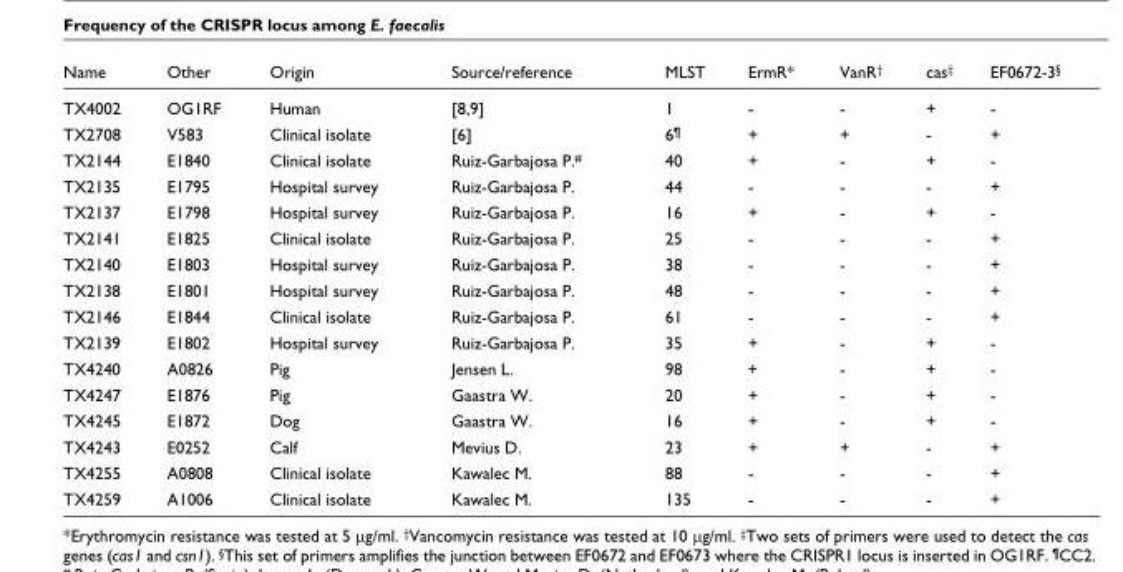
<table><thead><tr><td>Name</td><td>Other</td><td>Origin</td><td>Source/reference</td><td>MLST</td><td>ErmR*</td><td>VanR<sup>†</sup></td><td>cas<sup>‡</sup></td><td>EF0672-3<sup>§</sup></td></tr></thead><tbody><tr><td>TX4002</td><td>OG1RF</td><td>Human</td><td>[8,9]</td><td>1</td><td>-</td><td>-</td><td>+</td><td>-</td></tr><tr><td>TX2708</td><td>V583</td><td>Clinical isolate</td><td>[6]</td><td>6<sup>¶</sup></td><td>+</td><td>+</td><td>-</td><td>+</td></tr><tr><td>TX2144</td><td>E1840</td><td>Clinical isolate</td><td>Ruiz-Garbajosa P.<sup>#</sup></td><td>40</td><td>+</td><td>-</td><td>+</td><td>-</td></tr><tr><td>TX2135</td><td>E1795</td><td>Hospital survey</td><td>Ruiz-Garbajosa P.</td><td>44</td><td>-</td><td>-</td><td>-</td><td>+</td></tr><tr><td>TX2137</td><td>E1798</td><td>Hospital survey</td><td>Ruiz-Garbajosa P.</td><td>16</td><td>+</td><td>-</td><td>+</td><td>-</td></tr><tr><td>TX2141</td><td>E1825</td><td>Clinical isolate</td><td>Ruiz-Garbajosa P.</td><td>25</td><td>-</td><td>-</td><td>-</td><td>+</td></tr><tr><td>TX2140</td><td>E1803</td><td>Hospital survey</td><td>Ruiz-Garbajosa P.</td><td>38</td><td>-</td><td>-</td><td>-</td><td>+</td></tr><tr><td>TX2138</td><td>E1801</td><td>Hospital survey</td><td>Ruiz-Garbajosa P.</td><td>48</td><td>-</td><td>-</td><td>-</td><td>+</td></tr><tr><td>TX2146</td><td>E1844</td><td>Clinical isolate</td><td>Ruiz-Garbajosa P.</td><td>61</td><td>-</td><td>-</td><td>-</td><td>+</td></tr><tr><td>TX2139</td><td>E1802</td><td>Hospital survey</td><td>Ruiz-Garbajosa P.</td><td>35</td><td>+</td><td>-</td><td>+</td><td>-</td></tr><tr><td>TX4240</td><td>A0826</td><td>Pig</td><td>Jensen L.</td><td>98</td><td>+</td><td>-</td><td>+</td><td>-</td></tr><tr><td>TX4247</td><td>E1876</td><td>Pig</td><td>Gaastra W.</td><td>20</td><td>+</td><td>-</td><td>+</td><td>-</td></tr><tr><td>TX4245</td><td>E1872</td><td>Dog</td><td>Gaastra W.</td><td>16</td><td>+</td><td>-</td><td>+</td><td>-</td></tr><tr><td>TX4243</td><td>E0252</td><td>Calf</td><td>Mevius D.</td><td>23</td><td>+</td><td>+</td><td>-</td><td>+</td></tr><tr><td>TX4255</td><td>A0808</td><td>Clinical isolate</td><td>Kawalec M.</td><td>88</td><td>-</td><td>-</td><td>-</td><td>+</td></tr><tr><td>TX4259</td><td>A1006</td><td>Clinical isolate</td><td>Kawalec M.</td><td>135</td><td>-</td><td>-</td><td>-</td><td>+</td></tr></tbody></table>